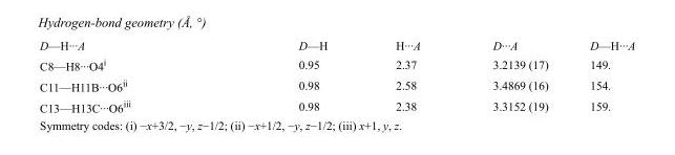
<table><tbody><tr><td>D—H···A</td><td>D—H</td><td>H···A</td><td>D···A</td><td>D—H···A</td></tr><tr><td>C8—H8···O4<sup>i</sup></td><td>0.95</td><td>2.37</td><td>3.2139 (17)</td><td>149.</td></tr><tr><td>C11—H11B···O6<sup>ii</sup></td><td>0.98</td><td>2.58</td><td>3.4869 (16)</td><td>154.</td></tr><tr><td>C13—H13C···O6<sup>iii</sup></td><td>0.98</td><td>2.38</td><td>3.3152 (19)</td><td>159.</td></tr></tbody></table>